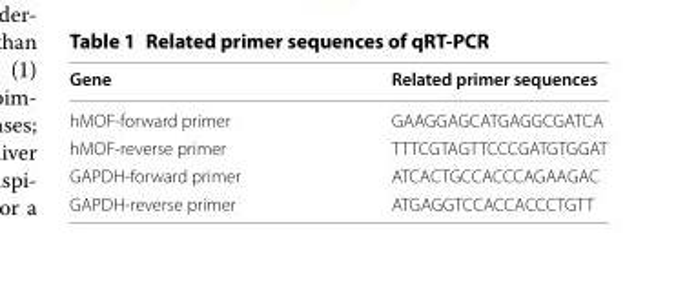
<table><thead><tr><td>Gene</td><td>Related primer sequences</td></tr></thead><tbody><tr><td>hMOF-forward primer</td><td>GAAGGAGCATGAGGCGATCA</td></tr><tr><td>hMOF-reverse primer</td><td>TTTCGTAGTTCCCGATGTGGAT</td></tr><tr><td>GAPDH-forward primer</td><td>ATCACTGCCACCCAGAAGAC</td></tr><tr><td>GAPDH-reverse primer</td><td>ATGAGGTCCACCACCCTGTT</td></tr></tbody></table>